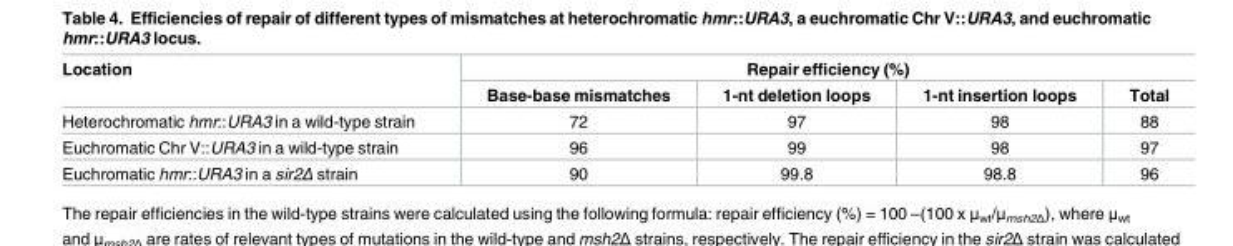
<table><thead><tr><td rowspan="2">Location</td><td colspan="4">Repair efficiency (%)</td></tr><tr><td>Base-base mismatches</td><td>1-nt deletion loops</td><td>1-nt insertion loops</td><td>Total</td></tr></thead><tbody><tr><td>Heterochromatic hmr::URA3 in a wild-type strain</td><td>72</td><td>97</td><td>98</td><td>88</td></tr><tr><td>Euchromatic Chr V::URA3 in a wild-type strain</td><td>96</td><td>99</td><td>98</td><td>97</td></tr><tr><td>Euchromatic hmr::URA3 in a sir2Δ strain</td><td>90</td><td>99.8</td><td>98.8</td><td>96</td></tr></tbody></table>